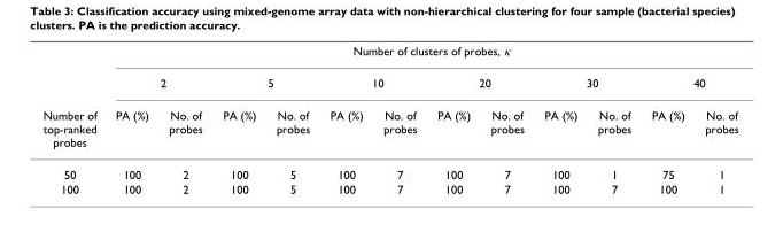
<table><thead><tr><td rowspan="3">Number of top-ranked probes</td><td colspan="12">Number of clusters of probes, κ</td></tr><tr><td colspan="2">2</td><td colspan="2">5</td><td colspan="2">10</td><td colspan="2">20</td><td colspan="2">30</td><td colspan="2">40</td></tr><tr><td>PA (%)</td><td>No. of probes</td><td>PA (%)</td><td>No. of probes</td><td>PA (%)</td><td>No. of probes</td><td>PA (%)</td><td>No. of probes</td><td>PA (%)</td><td>No. of probes</td><td>PA (%)</td><td>No. of probes</td></tr></thead><tbody><tr><td>50</td><td>100</td><td>2</td><td>100</td><td>5</td><td>100</td><td>7</td><td>100</td><td>7</td><td>100</td><td>1</td><td>75</td><td>1</td></tr><tr><td>100</td><td>100</td><td>2</td><td>100</td><td>5</td><td>100</td><td>7</td><td>100</td><td>7</td><td>100</td><td>7</td><td>100</td><td>1</td></tr></tbody></table>